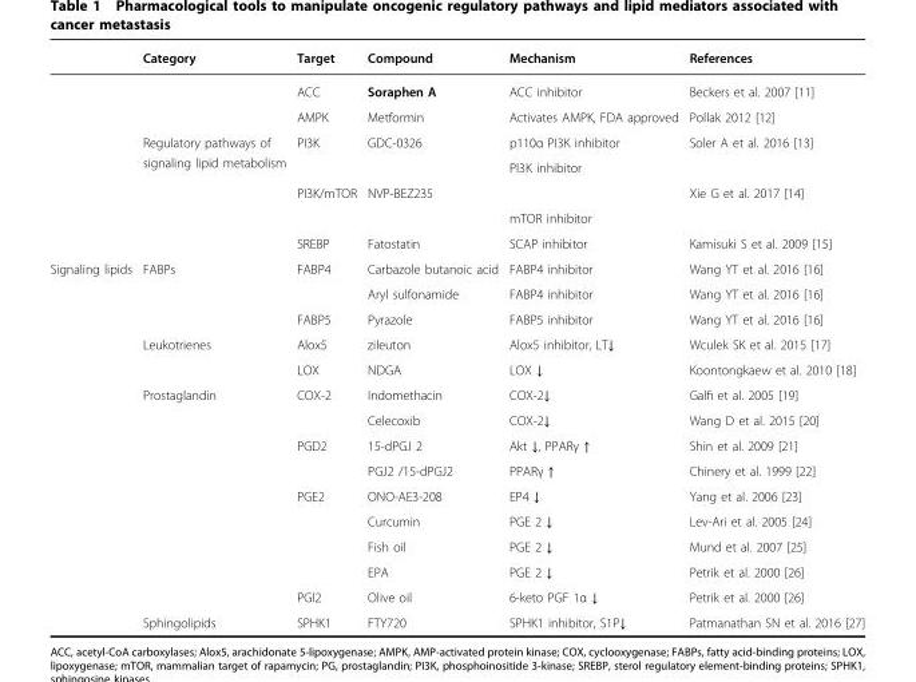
<table><thead><tr><td></td><td>Category</td><td>Target</td><td>Compound</td><td>Mechanism</td><td>References</td></tr></thead><tbody><tr><td></td><td></td><td>ACC</td><td>Soraphen A</td><td>ACC inhibitor</td><td>Beckers et al. 2007 [11]</td></tr><tr><td></td><td></td><td>AMPK</td><td>Metformin</td><td>Activates AMPK, FDA approved</td><td>Pollak 2012 [12]</td></tr><tr><td></td><td rowspan="4">Regulatory pathways of signaling lipid metabolism</td><td>PI3K</td><td>GDC-0326</td><td>p110α PI3K inhibitor</td><td>Soler A et al. 2016 [13]</td></tr><tr><td></td><td></td><td></td><td>PI3K inhibitor</td><td></td></tr><tr><td></td><td>PI3K/mTOR</td><td>NVP-BEZ235</td><td></td><td>Xie G et al. 2017 [14]</td></tr><tr><td></td><td></td><td></td><td>mTOR inhibitor</td><td></td></tr><tr><td></td><td></td><td>SREBP</td><td>Fatostatin</td><td>SCAP inhibitor</td><td>Kamisuki S et al. 2009 [15]</td></tr><tr><td rowspan="15">Signaling lipids</td><td rowspan="3">FABPs</td><td>FABP4</td><td>Carbazole butanoic acid</td><td>FABP4 inhibitor</td><td>Wang YT et al. 2016 [16]</td></tr><tr><td></td><td>Aryl sulfonamide</td><td>FABP4 inhibitor</td><td>Wang YT et al. 2016 [16]</td></tr><tr><td>FABP5</td><td>Pyrazole</td><td>FABP5 inhibitor</td><td>Wang YT et al. 2016 [16]</td></tr><tr><td rowspan="2">Leukotrienes</td><td>Alox5</td><td>zileuton</td><td>Alox5 inhibitor, LT↓</td><td>Wculek SK et al. 2015 [17]</td></tr><tr><td>LOX</td><td>NDGA</td><td>LOX ↓</td><td>Koontongkaew et al. 2010 [18]</td></tr><tr><td rowspan="9">Prostaglandin</td><td rowspan="2">COX-2</td><td>Indomethacin</td><td>COX-2↓</td><td>Galfi et al. 2005 [19]</td></tr><tr><td>Celecoxib</td><td>COX-2↓</td><td>Wang D et al. 2015 [20]</td></tr><tr><td>PGD2</td><td>15-dPGJ 2</td><td>Akt ↓, PPARγ ↑</td><td>Shin et al. 2009 [21]</td></tr><tr><td></td><td>PGJ2 /15-dPGJ2</td><td>PPARγ ↑</td><td>Chinery et al. 1999 [22]</td></tr><tr><td rowspan="4">PGE2</td><td>ONO-AE3-208</td><td>EP4 ↓</td><td>Yang et al. 2006 [23]</td></tr><tr><td>Curcumin</td><td>PGE 2 ↓</td><td>Lev-Ari et al. 2005 [24]</td></tr><tr><td>Fish oil</td><td>PGE 2 ↓</td><td>Mund et al. 2007 [25]</td></tr><tr><td>EPA</td><td>PGE 2 ↓</td><td>Petrik et al. 2000 [26]</td></tr><tr><td>PGI2</td><td>Olive oil</td><td>6-keto PGF 1α ↓</td><td>Petrik et al. 2000 [26]</td></tr><tr><td>Sphingolipids</td><td>SPHK1</td><td>FTY720</td><td>SPHK1 inhibitor, S1P↓</td><td>Patmanathan SN et al. 2016 [27]</td></tr></tbody></table>